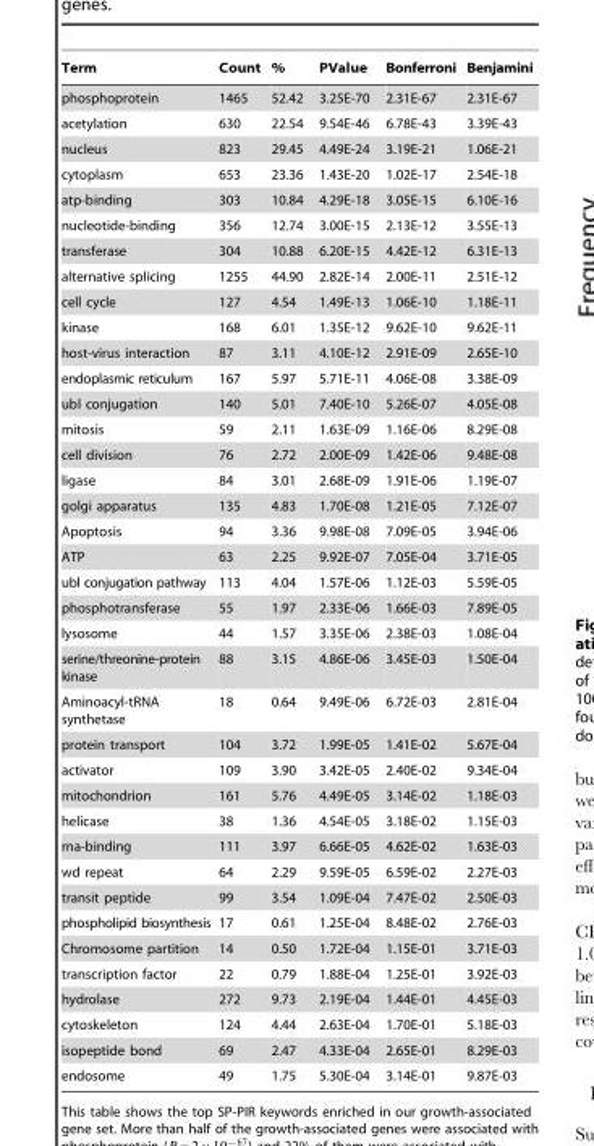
<table><thead><tr><td>Term</td><td>Count</td><td>%</td><td>PValue</td><td>Bonferroni</td><td>Benjamini</td></tr></thead><tbody><tr><td>phosphoprotein</td><td>1465</td><td>52.42</td><td>3.25E-70</td><td>2.31E-67</td><td>2.31E-67</td></tr><tr><td>acetylation</td><td>630</td><td>22.54</td><td>9.54E-46</td><td>6.78E-43</td><td>3.39E-43</td></tr><tr><td>nucleus</td><td>823</td><td>29.45</td><td>4.49E-24</td><td>3.19E-21</td><td>1.06E-21</td></tr><tr><td>cytoplasm</td><td>653</td><td>23.36</td><td>1.43E-20</td><td>1.02E-17</td><td>2.54E-18</td></tr><tr><td>atp-binding</td><td>303</td><td>10.84</td><td>4.29E-18</td><td>3.05E-15</td><td>6.10E-16</td></tr><tr><td>nucleotide-binding</td><td>356</td><td>12.74</td><td>3.00E-15</td><td>2.13E-12</td><td>3.55E-13</td></tr><tr><td>transferase</td><td>304</td><td>10.88</td><td>6.20E-15</td><td>4.42E-12</td><td>6.31E-13</td></tr><tr><td>alternative splicing</td><td>1255</td><td>44.90</td><td>2.82E-14</td><td>2.00E-11</td><td>2.51E-12</td></tr><tr><td>cell cycle</td><td>127</td><td>4.54</td><td>1.49E-13</td><td>1.06E-10</td><td>1.18E-11</td></tr><tr><td>kinase</td><td>168</td><td>6.01</td><td>1.35E-12</td><td>9.62E-10</td><td>9.62E-11</td></tr><tr><td>host-virus interaction</td><td>87</td><td>3.11</td><td>4.10E-12</td><td>2.91E-09</td><td>2.65E-10</td></tr><tr><td>endoplasmic reticulum</td><td>167</td><td>5.97</td><td>5.71E-11</td><td>4.06E-08</td><td>3.38E-09</td></tr><tr><td>ubl conjugation</td><td>140</td><td>5.01</td><td>7.40E-10</td><td>5.26E-07</td><td>4.05E-08</td></tr><tr><td>mitosis</td><td>59</td><td>2.11</td><td>1.63E-09</td><td>1.16E-06</td><td>8.29E-08</td></tr><tr><td>cell division</td><td>76</td><td>2.72</td><td>2.00E-09</td><td>1.42E-06</td><td>9.48E-08</td></tr><tr><td>ligase</td><td>84</td><td>3.01</td><td>2.68E-09</td><td>1.91E-06</td><td>1.19E-07</td></tr><tr><td>golgi apparatus</td><td>135</td><td>4.83</td><td>1.70E-08</td><td>1.21E-05</td><td>7.12E-07</td></tr><tr><td>Apoptosis</td><td>94</td><td>3.36</td><td>9.98E-08</td><td>7.09E-05</td><td>3.94E-06</td></tr><tr><td>ATP</td><td>63</td><td>2.25</td><td>9.92E-07</td><td>7.05E-04</td><td>3.71E-05</td></tr><tr><td>ubl conjugation pathway</td><td>113</td><td>4.04</td><td>1.57E-06</td><td>1.12E-03</td><td>5.59E-05</td></tr><tr><td>phosphotransferase</td><td>55</td><td>1.97</td><td>2.33E-06</td><td>1.66E-03</td><td>7.89E-05</td></tr><tr><td>lysosome</td><td>44</td><td>1.57</td><td>3.35E-06</td><td>2.38E-03</td><td>1.08E-04</td></tr><tr><td>serine/threonine-protein kinase</td><td>88</td><td>3.15</td><td>4.86E-06</td><td>3.45E-03</td><td>1.50E-04</td></tr><tr><td>Aminoacyl-tRNA synthetase</td><td>18</td><td>0.64</td><td>9.49E-06</td><td>6.72E-03</td><td>2.81E-04</td></tr><tr><td>protein transport</td><td>104</td><td>3.72</td><td>1.99E-05</td><td>1.41E-02</td><td>5.67E-04</td></tr><tr><td>activator</td><td>109</td><td>3.90</td><td>3.42E-05</td><td>2.40E-02</td><td>9.34E-04</td></tr><tr><td>mitochondrion</td><td>161</td><td>5.76</td><td>4.49E-05</td><td>3.14E-02</td><td>1.18E-03</td></tr><tr><td>helicase</td><td>38</td><td>1.36</td><td>4.54E-05</td><td>3.18E-02</td><td>1.15E-03</td></tr><tr><td>rna-binding</td><td>111</td><td>3.97</td><td>6.66E-05</td><td>4.62E-02</td><td>1.63E-03</td></tr><tr><td>wd repeat</td><td>64</td><td>2.29</td><td>9.59E-05</td><td>6.59E-02</td><td>2.27E-03</td></tr><tr><td>transit peptide</td><td>99</td><td>3.54</td><td>1.09E-04</td><td>7.47E-02</td><td>2.50E-03</td></tr><tr><td>phospholipid biosynthesis</td><td>17</td><td>0.61</td><td>1.25E-04</td><td>8.48E-02</td><td>2.76E-03</td></tr><tr><td>Chromosome partition</td><td>14</td><td>0.50</td><td>1.72E-04</td><td>1.15E-01</td><td>3.71E-03</td></tr><tr><td>transcription factor</td><td>22</td><td>0.79</td><td>1.88E-04</td><td>1.25E-01</td><td>3.92E-03</td></tr><tr><td>hydrolase</td><td>272</td><td>9.73</td><td>2.19E-04</td><td>1.44E-01</td><td>4.45E-03</td></tr><tr><td>cytoskeleton</td><td>124</td><td>4.44</td><td>2.63E-04</td><td>1.70E-01</td><td>5.18E-03</td></tr><tr><td>isopeptide bond</td><td>69</td><td>2.47</td><td>4.33E-04</td><td>2.65E-01</td><td>8.29E-03</td></tr><tr><td>endosome</td><td>49</td><td>1.75</td><td>5.30E-04</td><td>3.14E-01</td><td>9.87E-03</td></tr></tbody></table>